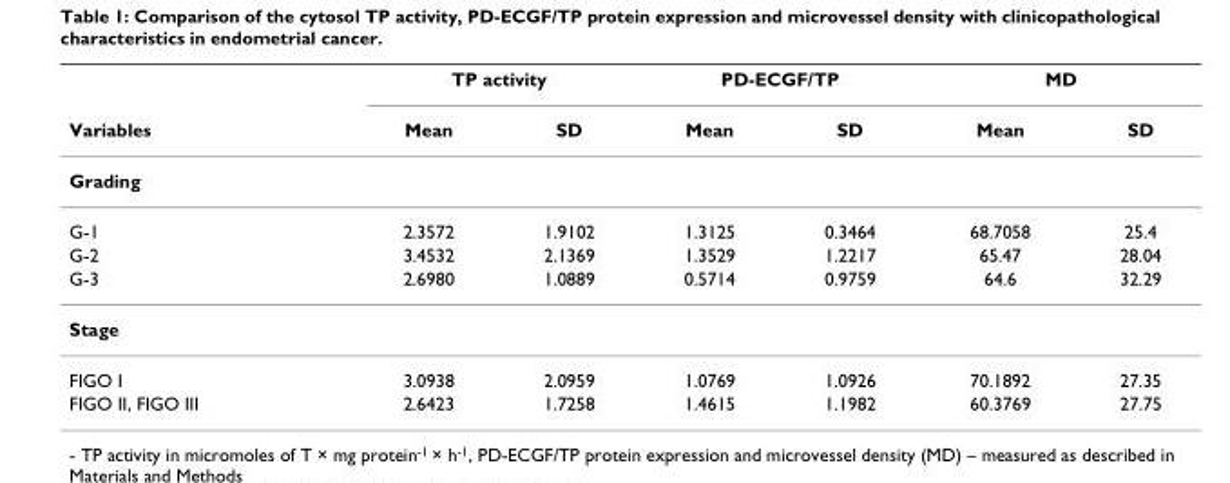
<table><thead><tr><td rowspan="2">Variables</td><td colspan="2">TP activity</td><td colspan="2">PD-ECGF/TP</td><td colspan="2">MD</td></tr><tr><td>Mean</td><td>SD</td><td>Mean</td><td>SD</td><td>Mean</td><td>SD</td></tr></thead><tbody><tr><td colspan="7">Grading</td></tr><tr><td>G-1</td><td>2.3572</td><td>1.9102</td><td>1.3125</td><td>0.3464</td><td>68.7058</td><td>25.4</td></tr><tr><td>G-2</td><td>3.4532</td><td>2.1369</td><td>1.3529</td><td>1.2217</td><td>65.47</td><td>28.04</td></tr><tr><td>G-3</td><td>2.6980</td><td>1.0889</td><td>0.5714</td><td>0.9759</td><td>64.6</td><td>32.29</td></tr><tr><td colspan="7">Stage</td></tr><tr><td>FIGO I</td><td>3.0938</td><td>2.0959</td><td>1.0769</td><td>1.0926</td><td>70.1892</td><td>27.35</td></tr><tr><td>FIGO II, FIGO III</td><td>2.6423</td><td>1.7258</td><td>1.4615</td><td>1.1982</td><td>60.3769</td><td>27.75</td></tr></tbody></table>